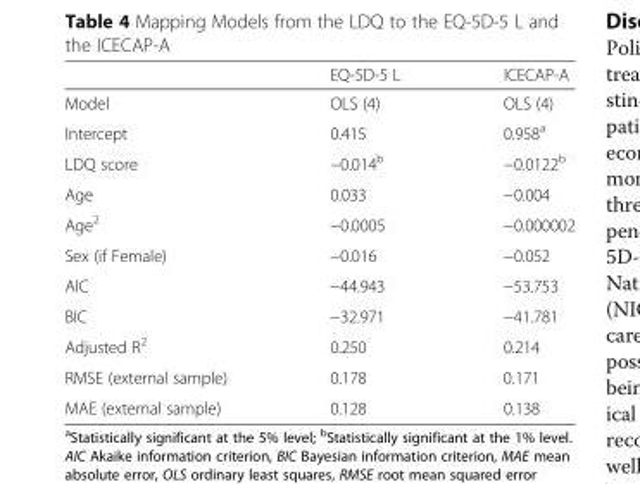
<table><thead><tr><td></td><td>EQ-5D-5 L</td><td>ICECAP-A</td></tr></thead><tbody><tr><td>Model</td><td>OLS (4)</td><td>OLS (4)</td></tr><tr><td>Intercept</td><td>0.415</td><td>0.958<sup>a</sup></td></tr><tr><td>LDQ score</td><td>−0.014<sup>b</sup></td><td>−0.0122<sup>b</sup></td></tr><tr><td>Age</td><td>0.033</td><td>−0.004</td></tr><tr><td>Age<sup>2</sup></td><td>−0.0005</td><td>−0.000002</td></tr><tr><td>Sex (if Female)</td><td>−0.016</td><td>−0.052</td></tr><tr><td>AIC</td><td>−44.943</td><td>−53.753</td></tr><tr><td>BIC</td><td>−32.971</td><td>−41.781</td></tr><tr><td>Adjusted R<sup>2</sup></td><td>0.250</td><td>0.214</td></tr><tr><td>RMSE (external sample)</td><td>0.178</td><td>0.171</td></tr><tr><td>MAE (external sample)</td><td>0.128</td><td>0.138</td></tr></tbody></table>